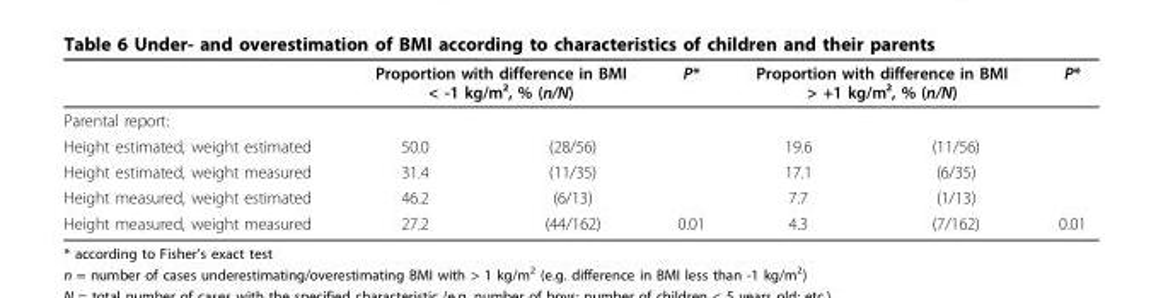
<table><thead><tr><td rowspan="2">Parental report:</td><td colspan="2">Proportion with difference in BMI &lt; -1 kg/m², % (n/N)</td><td rowspan="2">P*</td><td colspan="2">Proportion with difference in BMI &gt; +1 kg/m², % (n/N)</td><td rowspan="2">P*</td></tr><tr><td></td><td></td><td></td><td></td></tr></thead><tbody><tr><td>Height estimated, weight estimated</td><td>50.0</td><td>(28/56)</td><td></td><td>19.6</td><td>(11/56)</td><td></td></tr><tr><td>Height estimated, weight measured</td><td>31.4</td><td>(11/35)</td><td></td><td>17.1</td><td>(6/35)</td><td></td></tr><tr><td>Height measured, weight estimated</td><td>46.2</td><td>(6/13)</td><td></td><td>7.7</td><td>(1/13)</td><td></td></tr><tr><td>Height measured, weight measured</td><td>27.2</td><td>(44/162)</td><td>0.01</td><td>4.3</td><td>(7/162)</td><td>0.01</td></tr></tbody></table>